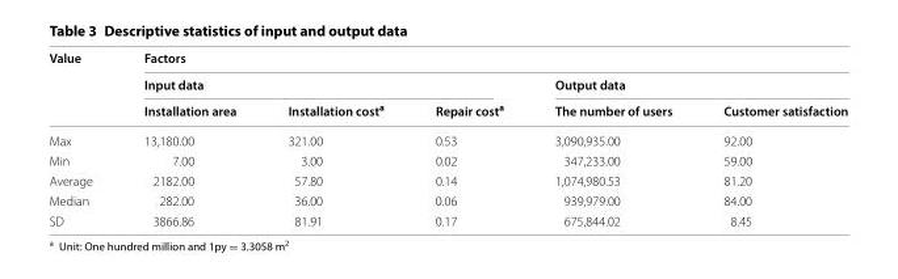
<table><thead><tr><td rowspan="3">Value</td><td colspan="5">Factors</td></tr><tr><td colspan="3">Input data</td><td colspan="2">Output data</td></tr><tr><td>Installation area</td><td>Installation cost<sup>a</sup></td><td>Repair cost<sup>a</sup></td><td>The number of users</td><td>Customer satisfaction</td></tr></thead><tbody><tr><td>Max</td><td>13,180.00</td><td>321.00</td><td>0.53</td><td>3,090,935.00</td><td>92.00</td></tr><tr><td>Min</td><td>7.00</td><td>3.00</td><td>0.02</td><td>347,233.00</td><td>59.00</td></tr><tr><td>Average</td><td>2182.00</td><td>57.80</td><td>0.14</td><td>1,074,980.53</td><td>81.20</td></tr><tr><td>Median</td><td>282.00</td><td>36.00</td><td>0.06</td><td>939,979.00</td><td>84.00</td></tr><tr><td>SD</td><td>3866.86</td><td>81.91</td><td>0.17</td><td>675,844.02</td><td>8.45</td></tr></tbody></table>